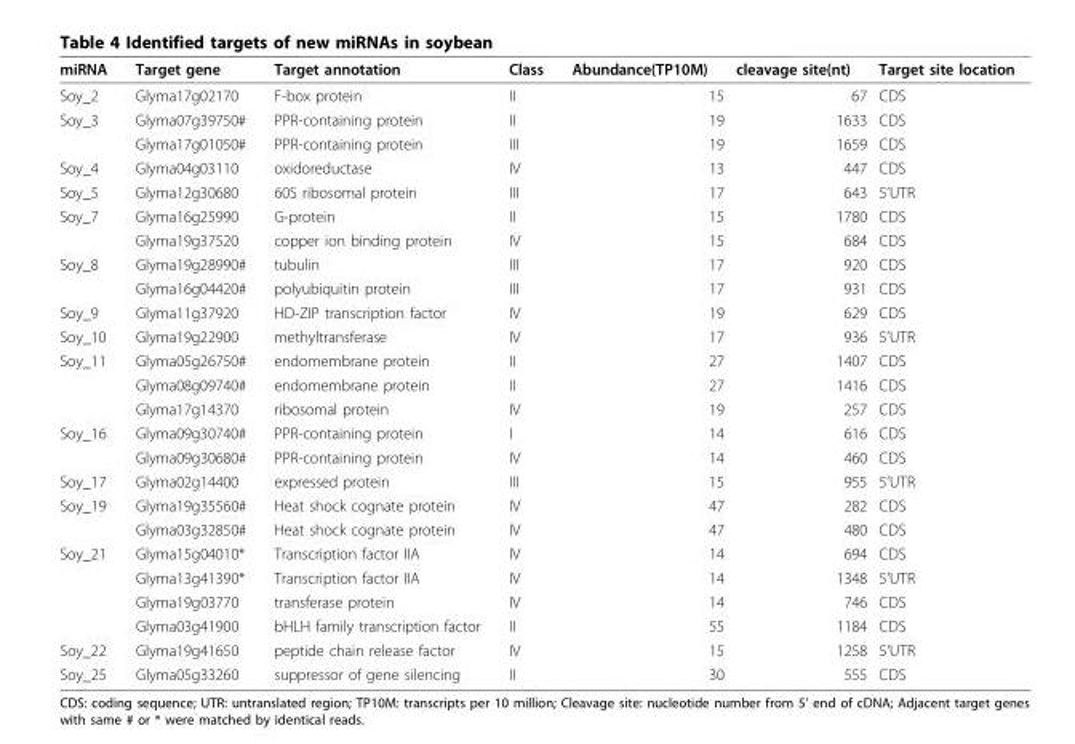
<table><thead><tr><td>miRNA</td><td>Target gene</td><td>Target annotation</td><td>Class</td><td>Abundance(TP10M)</td><td>cleavage site(nt)</td><td>Target site location</td></tr></thead><tbody><tr><td>Soy_2</td><td>Glyma17g02170</td><td>F-box protein</td><td>II</td><td>15</td><td>67</td><td>CDS</td></tr><tr><td rowspan="2">Soy_3</td><td>Glyma07g39750#</td><td>PPR-containing protein</td><td>II</td><td>19</td><td>1633</td><td>CDS</td></tr><tr><td>Glyma17g01050#</td><td>PPR-containing protein</td><td>III</td><td>19</td><td>1659</td><td>CDS</td></tr><tr><td>Soy_4</td><td>Glyma04g03110</td><td>oxidoreductase</td><td>IV</td><td>13</td><td>447</td><td>CDS</td></tr><tr><td>Soy_5</td><td>Glyma12g30680</td><td>60S ribosomal protein</td><td>III</td><td>17</td><td>643</td><td>5’UTR</td></tr><tr><td rowspan="2">Soy_7</td><td>Glyma16g25990</td><td>G-protein</td><td>II</td><td>15</td><td>1780</td><td>CDS</td></tr><tr><td>Glyma19g37520</td><td>copper ion binding protein</td><td>IV</td><td>15</td><td>684</td><td>CDS</td></tr><tr><td rowspan="2">Soy_8</td><td>Glyma19g28990#</td><td>tubulin</td><td>III</td><td>17</td><td>920</td><td>CDS</td></tr><tr><td>Glyma16g04420#</td><td>polyubiquitin protein</td><td>III</td><td>17</td><td>931</td><td>CDS</td></tr><tr><td>Soy_9</td><td>Glyma11g37920</td><td>HD-ZIP transcription factor</td><td>IV</td><td>19</td><td>629</td><td>CDS</td></tr><tr><td>Soy_10</td><td>Glyma19g22900</td><td>methyltransferase</td><td>IV</td><td>17</td><td>936</td><td>5’UTR</td></tr><tr><td rowspan="3">Soy_11</td><td>Glyma05g26750#</td><td>endomembrane protein</td><td>II</td><td>27</td><td>1407</td><td>CDS</td></tr><tr><td>Glyma08g09740#</td><td>endomembrane protein</td><td>II</td><td>27</td><td>1416</td><td>CDS</td></tr><tr><td>Glyma17g14370</td><td>ribosomal protein</td><td>IV</td><td>19</td><td>257</td><td>CDS</td></tr><tr><td rowspan="2">Soy_16</td><td>Glyma09g30740#</td><td>PPR-containing protein</td><td>I</td><td>14</td><td>616</td><td>CDS</td></tr><tr><td>Glyma09g30680#</td><td>PPR-containing protein</td><td>IV</td><td>14</td><td>460</td><td>CDS</td></tr><tr><td>Soy_17</td><td>Glyma02g14400</td><td>expressed protein</td><td>III</td><td>15</td><td>955</td><td>5’UTR</td></tr><tr><td rowspan="2">Soy_19</td><td>Glyma19g35560#</td><td>Heat shock cognate protein</td><td>IV</td><td>47</td><td>282</td><td>CDS</td></tr><tr><td>Glyma03g32850#</td><td>Heat shock cognate protein</td><td>IV</td><td>47</td><td>480</td><td>CDS</td></tr><tr><td rowspan="4">Soy_21</td><td>Glyma15g04010*</td><td>Transcription factor IIA</td><td>IV</td><td>14</td><td>694</td><td>CDS</td></tr><tr><td>Glyma13g41390*</td><td>Transcription factor IIA</td><td>IV</td><td>14</td><td>1348</td><td>5’UTR</td></tr><tr><td>Glyma19g03770</td><td>transferase protein</td><td>IV</td><td>14</td><td>746</td><td>CDS</td></tr><tr><td>Glyma03g41900</td><td>bHLH family transcription factor</td><td>II</td><td>55</td><td>1184</td><td>CDS</td></tr><tr><td>Soy_22</td><td>Glyma19g41650</td><td>peptide chain release factor</td><td>IV</td><td>15</td><td>1258</td><td>5’UTR</td></tr><tr><td>Soy_25</td><td>Glyma05g33260</td><td>suppressor of gene silencing</td><td>II</td><td>30</td><td>555</td><td>CDS</td></tr></tbody></table>